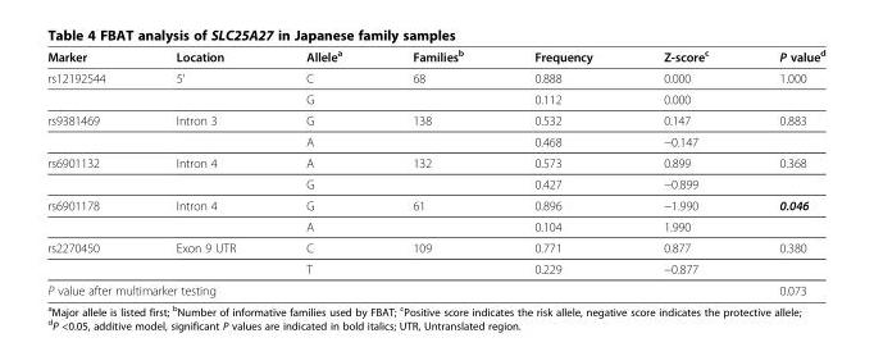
<table><thead><tr><td>Marker</td><td>Location</td><td>Allele<sup>a</sup></td><td>Families<sup>b</sup></td><td>Frequency</td><td>Z-score<sup>c</sup></td><td>P value<sup>d</sup></td></tr></thead><tbody><tr><td rowspan="2">rs12192544</td><td>5’</td><td>C</td><td>68</td><td>0.888</td><td>0.000</td><td>1.000</td></tr><tr><td></td><td>G</td><td></td><td>0.112</td><td>0.000</td><td></td></tr><tr><td rowspan="2">rs9381469</td><td>Intron 3</td><td>G</td><td>138</td><td>0.532</td><td>0.147</td><td>0.883</td></tr><tr><td></td><td>A</td><td></td><td>0.468</td><td>−0.147</td><td></td></tr><tr><td rowspan="2">rs6901132</td><td>Intron 4</td><td>A</td><td>132</td><td>0.573</td><td>0.899</td><td>0.368</td></tr><tr><td></td><td>G</td><td></td><td>0.427</td><td>−0.899</td><td></td></tr><tr><td rowspan="2">rs6901178</td><td>Intron 4</td><td>G</td><td>61</td><td>0.896</td><td>−1.990</td><td>0.046</td></tr><tr><td></td><td>A</td><td></td><td>0.104</td><td>1.990</td><td></td></tr><tr><td rowspan="2">rs2270450</td><td>Exon 9 UTR</td><td>C</td><td>109</td><td>0.771</td><td>0.877</td><td>0.380</td></tr><tr><td></td><td>T</td><td></td><td>0.229</td><td>−0.877</td><td></td></tr><tr><td colspan="6">P value after multimarker testing</td><td>0.073</td></tr></tbody></table>